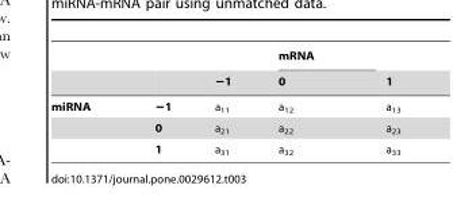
<table><thead><tr><td rowspan="2"></td><td rowspan="2"></td><td rowspan="2">−1</td><td rowspan="2">mRNA 0</td><td rowspan="2">1</td></tr><tr></tr></thead><tbody><tr><td rowspan="3">miRNA</td><td>−1</td><td>a<sub>11</sub></td><td>a<sub>12</sub></td><td>a<sub>13</sub></td></tr><tr><td>0</td><td>a<sub>21</sub></td><td>a<sub>22</sub></td><td>a<sub>23</sub></td></tr><tr><td>1</td><td>a<sub>31</sub></td><td>a<sub>32</sub></td><td>a<sub>33</sub></td></tr></tbody></table>